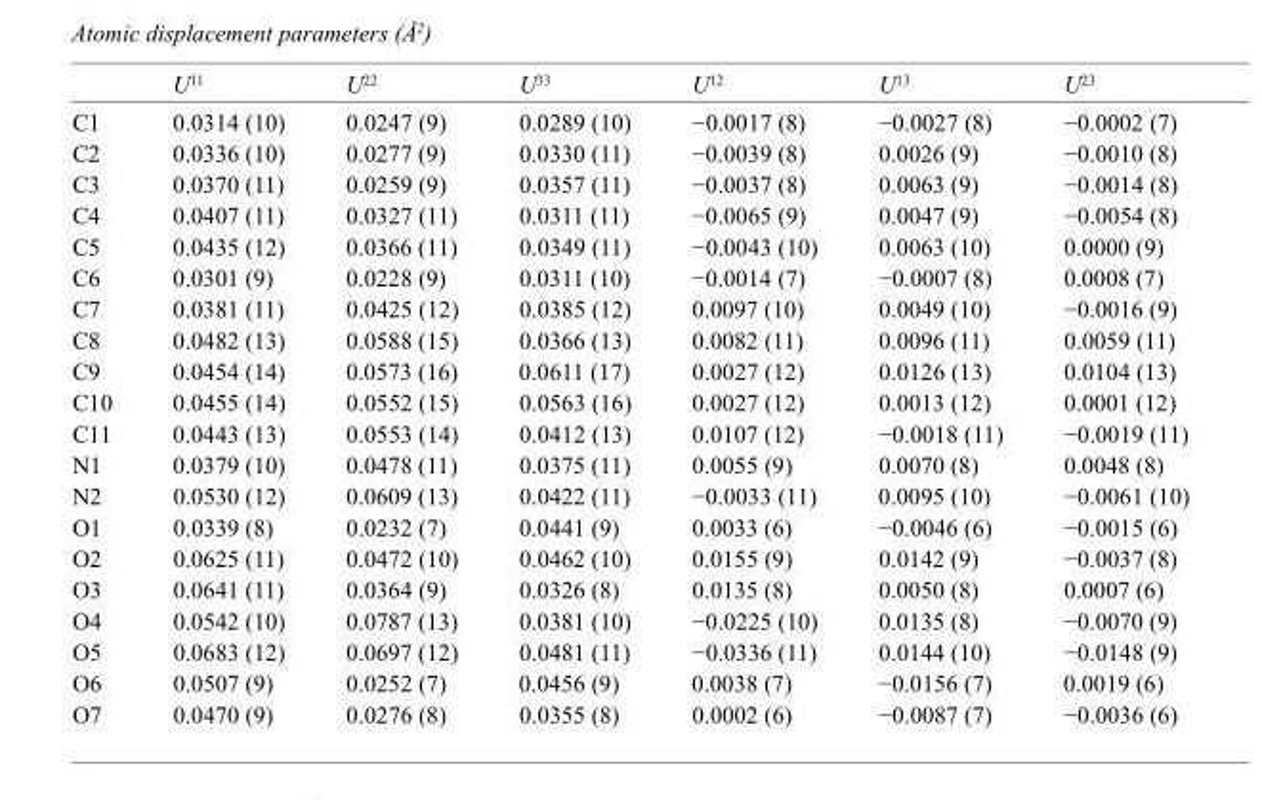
<table><thead><tr><td></td><td>U<sup>11</sup></td><td>U<sup>22</sup></td><td>U<sup>33</sup></td><td>U<sup>12</sup></td><td>U<sup>13</sup></td><td>U<sup>23</sup></td></tr></thead><tbody><tr><td>C1</td><td>0.0314 (10)</td><td>0.0247 (9)</td><td>0.0289 (10)</td><td>−0.0017 (8)</td><td>−0.0027 (8)</td><td>−0.0002 (7)</td></tr><tr><td>C2</td><td>0.0336 (10)</td><td>0.0277 (9)</td><td>0.0330 (11)</td><td>−0.0039 (8)</td><td>0.0026 (9)</td><td>−0.0010 (8)</td></tr><tr><td>C3</td><td>0.0370 (11)</td><td>0.0259 (9)</td><td>0.0357 (11)</td><td>−0.0037 (8)</td><td>0.0063 (9)</td><td>−0.0014 (8)</td></tr><tr><td>C4</td><td>0.0407 (11)</td><td>0.0327 (11)</td><td>0.0311 (11)</td><td>−0.0065 (9)</td><td>0.0047 (9)</td><td>−0.0054 (8)</td></tr><tr><td>C5</td><td>0.0435 (12)</td><td>0.0366 (11)</td><td>0.0349 (11)</td><td>−0.0043 (10)</td><td>0.0063 (10)</td><td>0.0000 (9)</td></tr><tr><td>C6</td><td>0.0301 (9)</td><td>0.0228 (9)</td><td>0.0311 (10)</td><td>−0.0014 (7)</td><td>−0.0007 (8)</td><td>0.0008 (7)</td></tr><tr><td>C7</td><td>0.0381 (11)</td><td>0.0425 (12)</td><td>0.0385 (12)</td><td>0.0097 (10)</td><td>0.0049 (10)</td><td>−0.0016 (9)</td></tr><tr><td>C8</td><td>0.0482 (13)</td><td>0.0588 (15)</td><td>0.0366 (13)</td><td>0.0082 (11)</td><td>0.0096 (11)</td><td>0.0059 (11)</td></tr><tr><td>C9</td><td>0.0454 (14)</td><td>0.0573 (16)</td><td>0.0611 (17)</td><td>0.0027 (12)</td><td>0.0126 (13)</td><td>0.0104 (13)</td></tr><tr><td>C10</td><td>0.0455 (14)</td><td>0.0552 (15)</td><td>0.0563 (16)</td><td>0.0027 (12)</td><td>0.0013 (12)</td><td>0.0001 (12)</td></tr><tr><td>C11</td><td>0.0443 (13)</td><td>0.0553 (14)</td><td>0.0412 (13)</td><td>0.0107 (12)</td><td>−0.0018 (11)</td><td>−0.0019 (11)</td></tr><tr><td>N1</td><td>0.0379 (10)</td><td>0.0478 (11)</td><td>0.0375 (11)</td><td>0.0055 (9)</td><td>0.0070 (8)</td><td>0.0048 (8)</td></tr><tr><td>N2</td><td>0.0530 (12)</td><td>0.0609 (13)</td><td>0.0422 (11)</td><td>−0.0033 (11)</td><td>0.0095 (10)</td><td>−0.0061 (10)</td></tr><tr><td>O1</td><td>0.0339 (8)</td><td>0.0232 (7)</td><td>0.0441 (9)</td><td>0.0033 (6)</td><td>−0.0046 (6)</td><td>−0.0015 (6)</td></tr><tr><td>O2</td><td>0.0625 (11)</td><td>0.0472 (10)</td><td>0.0462 (10)</td><td>0.0155 (9)</td><td>0.0142 (9)</td><td>−0.0037 (8)</td></tr><tr><td>O3</td><td>0.0641 (11)</td><td>0.0364 (9)</td><td>0.0326 (8)</td><td>0.0135 (8)</td><td>0.0050 (8)</td><td>0.0007 (6)</td></tr><tr><td>O4</td><td>0.0542 (10)</td><td>0.0787 (13)</td><td>0.0381 (10)</td><td>−0.0225 (10)</td><td>0.0135 (8)</td><td>−0.0070 (9)</td></tr><tr><td>O5</td><td>0.0683 (12)</td><td>0.0697 (12)</td><td>0.0481 (11)</td><td>−0.0336 (11)</td><td>0.0144 (10)</td><td>−0.0148 (9)</td></tr><tr><td>O6</td><td>0.0507 (9)</td><td>0.0252 (7)</td><td>0.0456 (9)</td><td>0.0038 (7)</td><td>−0.0156 (7)</td><td>0.0019 (6)</td></tr><tr><td>O7</td><td>0.0470 (9)</td><td>0.0276 (8)</td><td>0.0355 (8)</td><td>0.0002 (6)</td><td>−0.0087 (7)</td><td>−0.0036 (6)</td></tr></tbody></table>